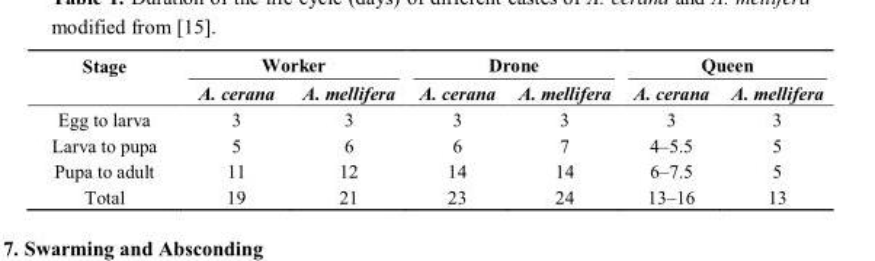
<table><thead><tr><td rowspan="2">Stage</td><td colspan="2">Worker</td><td colspan="2">Drone</td><td colspan="2">Queen</td></tr><tr><td>A. cerana</td><td>A. mellifera</td><td>A. cerana</td><td>A. mellifera</td><td>A. cerana</td><td>A. mellifera</td></tr></thead><tbody><tr><td>Egg to larva</td><td>3</td><td>3</td><td>3</td><td>3</td><td>3</td><td>3</td></tr><tr><td>Larva to pupa</td><td>5</td><td>6</td><td>6</td><td>7</td><td>4–5.5</td><td>5</td></tr><tr><td>Pupa to adult</td><td>11</td><td>12</td><td>14</td><td>14</td><td>6–7.5</td><td>5</td></tr><tr><td>Total</td><td>19</td><td>21</td><td>23</td><td>24</td><td>13–16</td><td>13</td></tr></tbody></table>